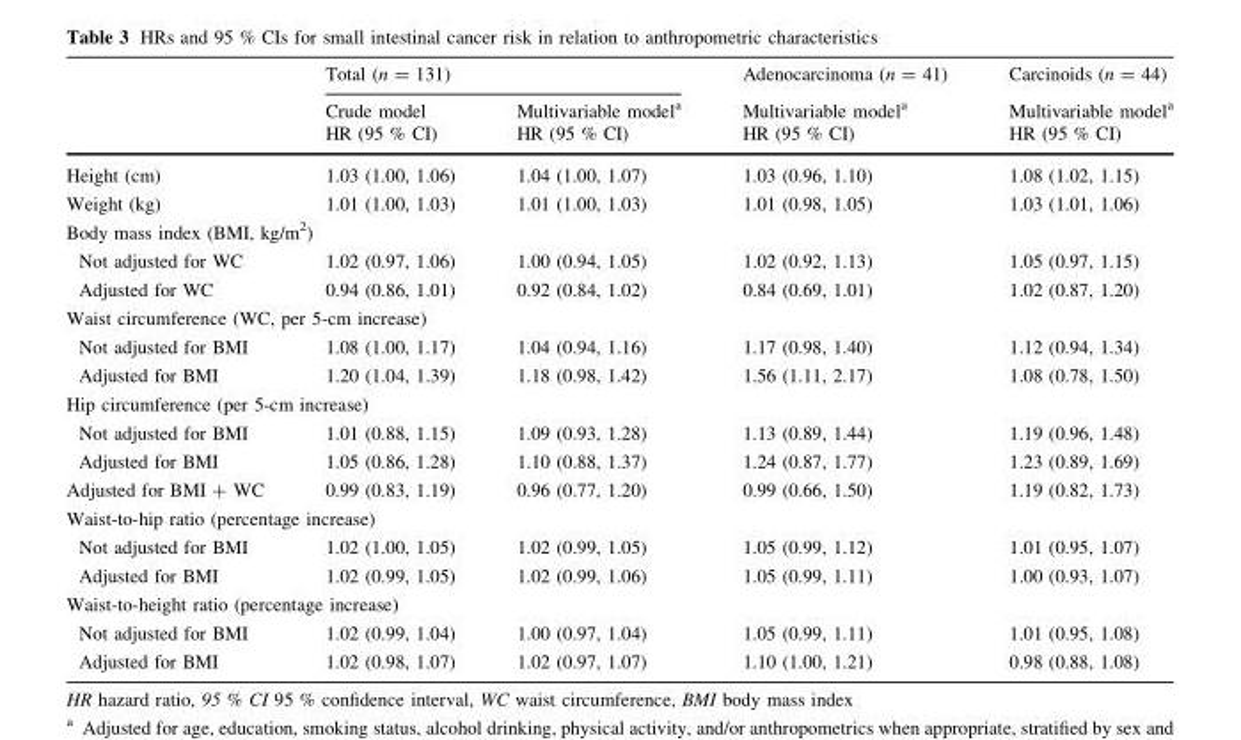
<table><thead><tr><td rowspan="3"></td><td colspan="2">Total (n = 131)</td><td rowspan="3">Adenocarcinoma (n = 41) Multivariable model<sup>a</sup> HR (95 % CI)</td><td rowspan="3">Carcinoids (n = 44) Multivariable model<sup>a</sup> HR (95 % CI)</td></tr><tr><td rowspan="2">Crude model HR (95 % CI)</td><td rowspan="2">Multivariable model<sup>a</sup> HR (95 % CI)</td></tr><tr></tr></thead><tbody><tr><td>Height (cm)</td><td>1.03 (1.00, 1.06)</td><td>1.04 (1.00, 1.07)</td><td>1.03 (0.96, 1.10)</td><td>1.08 (1.02, 1.15)</td></tr><tr><td>Weight (kg)</td><td>1.01 (1.00, 1.03)</td><td>1.01 (1.00, 1.03)</td><td>1.01 (0.98, 1.05)</td><td>1.03 (1.01, 1.06)</td></tr><tr><td colspan="5">Body mass index (BMI, kg/m<sup>2</sup>)</td></tr><tr><td>Not adjusted for WC</td><td>1.02 (0.97, 1.06)</td><td>1.00 (0.94, 1.05)</td><td>1.02 (0.92, 1.13)</td><td>1.05 (0.97, 1.15)</td></tr><tr><td>Adjusted for WC</td><td>0.94 (0.86, 1.01)</td><td>0.92 (0.84, 1.02)</td><td>0.84 (0.69, 1.01)</td><td>1.02 (0.87, 1.20)</td></tr><tr><td colspan="5">Waist circumference (WC, per 5-cm increase)</td></tr><tr><td>Not adjusted for BMI</td><td>1.08 (1.00, 1.17)</td><td>1.04 (0.94, 1.16)</td><td>1.17 (0.98, 1.40)</td><td>1.12 (0.94, 1.34)</td></tr><tr><td>Adjusted for BMI</td><td>1.20 (1.04, 1.39)</td><td>1.18 (0.98, 1.42)</td><td>1.56 (1.11, 2.17)</td><td>1.08 (0.78, 1.50)</td></tr><tr><td colspan="5">Hip circumference (per 5-cm increase)</td></tr><tr><td>Not adjusted for BMI</td><td>1.01 (0.88, 1.15)</td><td>1.09 (0.93, 1.28)</td><td>1.13 (0.89, 1.44)</td><td>1.19 (0.96, 1.48)</td></tr><tr><td>Adjusted for BMI</td><td>1.05 (0.86, 1.28)</td><td>1.10 (0.88, 1.37)</td><td>1.24 (0.87, 1.77)</td><td>1.23 (0.89, 1.69)</td></tr><tr><td>Adjusted for BMI + WC</td><td>0.99 (0.83, 1.19)</td><td>0.96 (0.77, 1.20)</td><td>0.99 (0.66, 1.50)</td><td>1.19 (0.82, 1.73)</td></tr><tr><td colspan="5">Waist-to-hip ratio (percentage increase)</td></tr><tr><td>Not adjusted for BMI</td><td>1.02 (1.00, 1.05)</td><td>1.02 (0.99, 1.05)</td><td>1.05 (0.99, 1.12)</td><td>1.01 (0.95, 1.07)</td></tr><tr><td>Adjusted for BMI</td><td>1.02 (0.99, 1.05)</td><td>1.02 (0.99, 1.06)</td><td>1.05 (0.99, 1.11)</td><td>1.00 (0.93, 1.07)</td></tr><tr><td colspan="5">Waist-to-height ratio (percentage increase)</td></tr><tr><td>Not adjusted for BMI</td><td>1.02 (0.99, 1.04)</td><td>1.00 (0.97, 1.04)</td><td>1.05 (0.99, 1.11)</td><td>1.01 (0.95, 1.08)</td></tr><tr><td>Adjusted for BMI</td><td>1.02 (0.98, 1.07)</td><td>1.02 (0.97, 1.07)</td><td>1.10 (1.00, 1.21)</td><td>0.98 (0.88, 1.08)</td></tr></tbody></table>